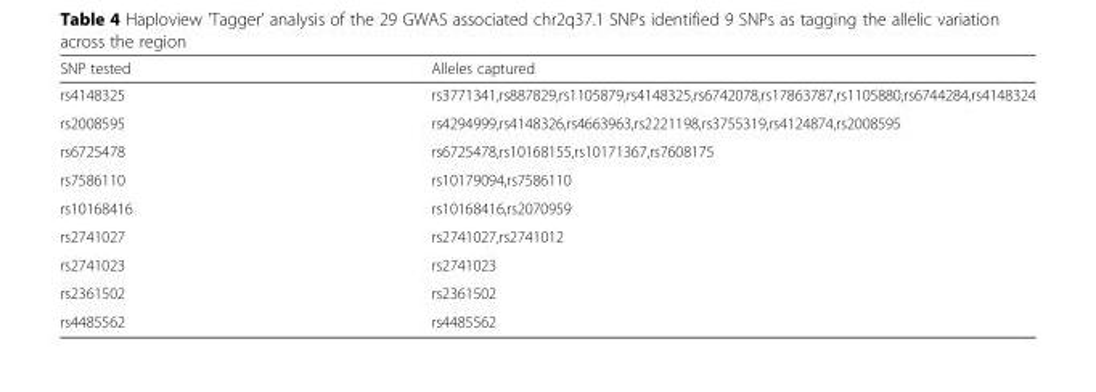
<table><thead><tr><td>SNP tested</td><td>Alleles captured</td></tr></thead><tbody><tr><td>rs4148325</td><td>rs3771341,rs887829,rs1105879,rs4148325,rs6742078,rs17863787,rs1105880,rs6744284,rs4148324</td></tr><tr><td>rs2008595</td><td>rs4294999,rs4148326,rs4663963,rs2221198,rs3755319,rs4124874,rs2008595</td></tr><tr><td>rs6725478</td><td>rs6725478,rs10168155,rs10171367,rs7608175</td></tr><tr><td>rs7586110</td><td>rs10179094,rs7586110</td></tr><tr><td>rs10168416</td><td>rs10168416,rs2070959</td></tr><tr><td>rs2741027</td><td>rs2741027,rs2741012</td></tr><tr><td>rs2741023</td><td>rs2741023</td></tr><tr><td>rs2361502</td><td>rs2361502</td></tr><tr><td>rs4485562</td><td>rs4485562</td></tr></tbody></table>